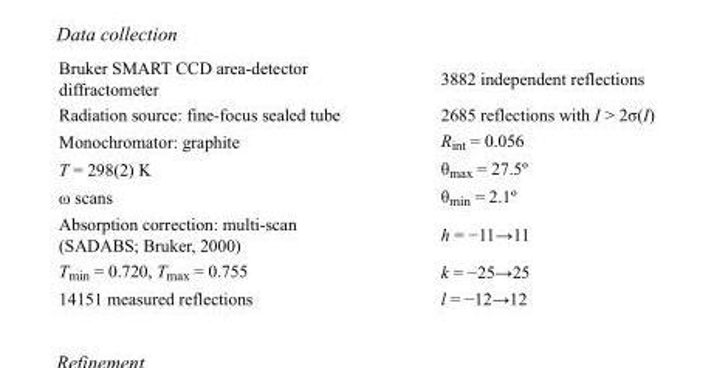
<table><tbody><tr><td>Bruker SMART CCD area-detector diffractometer</td><td>3882 independent reflections</td></tr><tr><td>Radiation source: fine-focus sealed tube</td><td>2685 reflections with I &gt; 2σ(I)</td></tr><tr><td>Monochromator: graphite</td><td>R<sub>int</sub> = 0.056</td></tr><tr><td>T = 298(2) K</td><td>θ<sub>max</sub> = 27.5º</td></tr><tr><td>ω scans</td><td>θ<sub>min</sub> = 2.1º</td></tr><tr><td>Absorption correction: multi-scan (SADABS; Bruker, 2000)</td><td>h = −11→11</td></tr><tr><td>T<sub>min</sub> = 0.720, T<sub>max</sub> = 0.755</td><td>k = −25→25</td></tr><tr><td>14151 measured reflections</td><td>l = −12→12</td></tr></tbody></table>